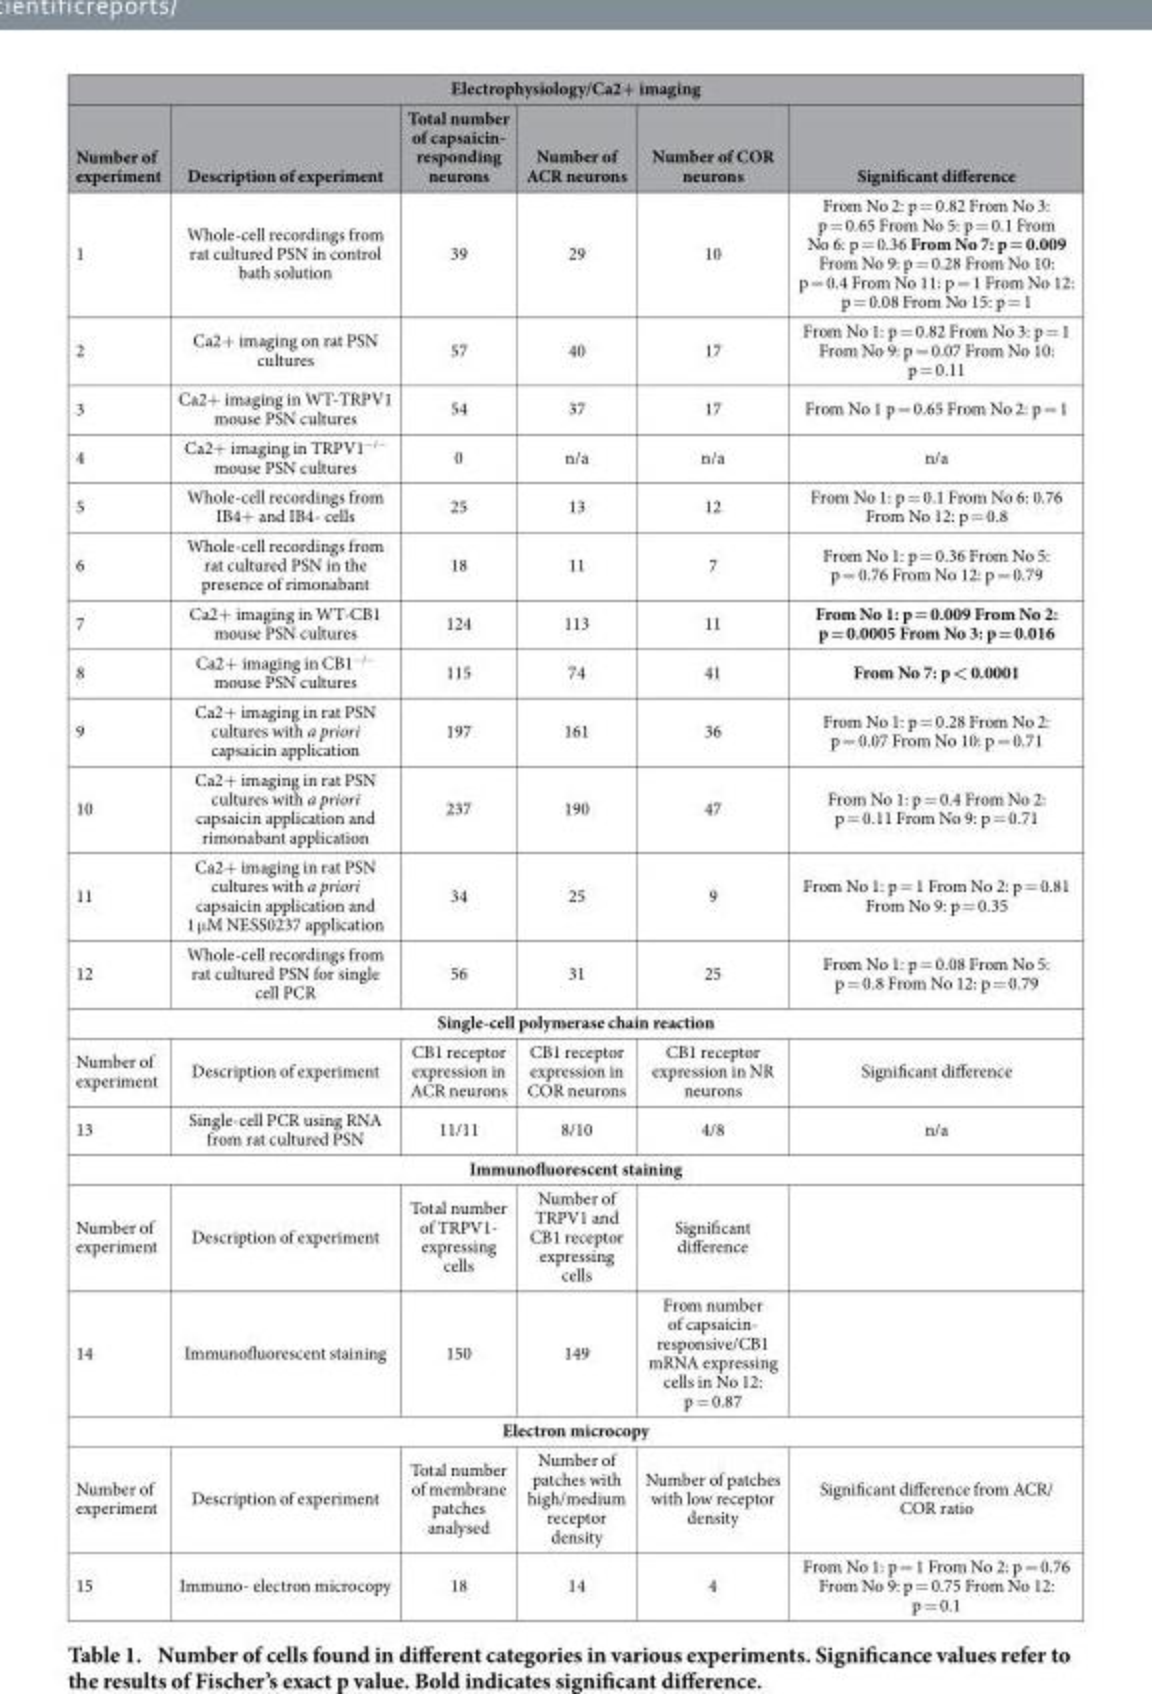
<table><thead><tr><td colspan="6">Electrophysiology/Ca2+ imaging</td></tr><tr><td>Number of experiment</td><td>Description of experiment</td><td>Total number of capsaicin- responding neurons</td><td>Number of ACR neurons</td><td>Number of COR neurons</td><td>Significant difference</td></tr></thead><tbody><tr><td>1</td><td>Whole-cell recordings from rat cultured PSN in control bath solution</td><td>39</td><td>29</td><td>10</td><td>From No 2: p = 0.82 From No 3: p = 0.65 From No 5: p = 0.1 From No 6: p = 0.36 From No 7: p = 0.009 From No 9: p = 0.28 From No 10: p = 0.4 From No 11: p = 1 From No 12: p = 0.08 From No 15: p = 1</td></tr><tr><td>2</td><td>Ca2+ imaging on rat PSN cultures</td><td>57</td><td>40</td><td>17</td><td>From No 1: p = 0.82 From No 3: p = 1 From No 9: p = 0.07 From No 10: p = 0.11</td></tr><tr><td>3</td><td>Ca2+ imaging in WT-TRPV1 mouse PSN cultures</td><td>54</td><td>37</td><td>17</td><td>From No 1 p = 0.65 From No 2: p = 1</td></tr><tr><td>4</td><td>Ca2+ imaging in TRPV1<sup>−/−</sup> mouse PSN cultures</td><td>0</td><td>n/a</td><td>n/a</td><td>n/a</td></tr><tr><td>5</td><td>Whole-cell recordings from IB4+ and IB4- cells</td><td>25</td><td>13</td><td>12</td><td>From No 1: p = 0.1 From No 6: 0.76 From No 12: p = 0.8</td></tr><tr><td>6</td><td>Whole-cell recordings from rat cultured PSN in the presence of rimonabant</td><td>18</td><td>11</td><td>7</td><td>From No 1: p = 0.36 From No 5: p = 0.76 From No 12: p = 0.79</td></tr><tr><td>7</td><td>Ca2+ imaging in WT-CB1 mouse PSN cultures</td><td>124</td><td>113</td><td>11</td><td>From No 1: p = 0.009 From No 2: p = 0.0005 From No 3: p = 0.016</td></tr><tr><td>8</td><td>Ca2+ imaging in CB1<sup>−/−</sup> mouse PSN cultures</td><td>115</td><td>74</td><td>41</td><td>From No 7: p &lt; 0.0001</td></tr><tr><td>9</td><td>Ca2+ imaging in rat PSN cultures with a priori capsaicin application</td><td>197</td><td>161</td><td>36</td><td>From No 1: p = 0.28 From No 2: p = 0.07 From No 10: p = 0.71</td></tr><tr><td>10</td><td>Ca2+ imaging in rat PSN cultures with a priori capsaicin application and rimonabant application</td><td>237</td><td>190</td><td>47</td><td>From No 1: p = 0.4 From No 2: p = 0.11 From No 9: p = 0.71</td></tr><tr><td>11</td><td>Ca2+ imaging in rat PSN cultures with a priori capsaicin application and 1 μ M NESS0237 application</td><td>34</td><td>25</td><td>9</td><td>From No 1: p = 1 From No 2: p = 0.81 From No 9: p = 0.35</td></tr><tr><td>12</td><td>Whole-cell recordings from rat cultured PSN for single cell PCR</td><td>56</td><td>31</td><td>25</td><td>From No 1: p = 0.08 From No 5: p = 0.8 From No 12: p = 0.79</td></tr><tr><td colspan="6">Single-cell polymerase chain reaction</td></tr><tr><td>Number of experiment</td><td>Description of experiment</td><td>CB1 receptor expression in ACR neurons</td><td>CB1 receptor expression in COR neurons</td><td>CB1 receptor expression in NR neurons</td><td>Significant difference</td></tr><tr><td>13</td><td>Single-cell PCR using RNA from rat cultured PSN</td><td>11/11</td><td>8/10</td><td>4/8</td><td>n/a</td></tr><tr><td colspan="6">Immunofluorescent staining</td></tr><tr><td>Number of experiment</td><td>Description of experiment</td><td>Total number of TRPV1- expressing cells</td><td>Number of TRPV1 and CB1 receptor expressing cells</td><td>Significant difference</td><td></td></tr><tr><td>14</td><td>Immunofluorescent staining</td><td>150</td><td>149</td><td>From number of capsaicin- responsive/CB1 mRNA expressing cells in No 12: p = 0.87</td><td></td></tr><tr><td colspan="6">Electron microcopy</td></tr><tr><td>Number of experiment</td><td>Description of experiment</td><td>Total number of membrane patches analysed</td><td>Number of patches with high/medium receptor density</td><td>Number of patches with low receptor density</td><td>Significant difference from ACR/ COR ratio</td></tr><tr><td>15</td><td>Immuno- electron microcopy</td><td>18</td><td>14</td><td>4</td><td>From No 1: p = 1 From No 2: p = 0.76 From No 9: p = 0.75 From No 12: p = 0.1</td></tr></tbody></table>